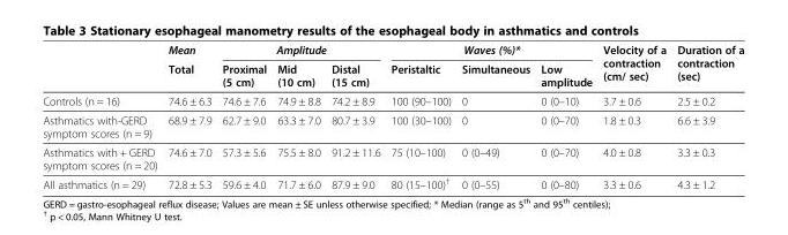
<table><thead><tr><td rowspan="2"></td><td rowspan="2">Mean Total</td><td colspan="3">Amplitude</td><td colspan="3">Waves (%)*</td><td rowspan="2">Velocity of a contraction (cm/ sec)</td><td rowspan="2">Duration of a contraction (sec)</td></tr><tr><td>Proximal (5 cm)</td><td>Mid (10 cm)</td><td>Distal (15 cm)</td><td>Peristaltic</td><td>Simultaneous</td><td>Low amplitude</td></tr></thead><tbody><tr><td>Controls (n = 16)</td><td>74.6 ± 6.3</td><td>74.6 ± 7.6</td><td>74.9 ± 8.8</td><td>74.2 ± 8.9</td><td>100 (90–100)</td><td>0</td><td>0 (0–10)</td><td>3.7 ± 0.6</td><td>2.5 ± 0.2</td></tr><tr><td>Asthmatics with-GERD symptom scores (n = 9)</td><td>68.9 ± 7.9</td><td>62.7 ± 9.0</td><td>63.3 ± 7.0</td><td>80.7 ± 3.9</td><td>100 (30–100)</td><td>0</td><td>0 (0–70)</td><td>1.8 ± 0.3</td><td>6.6 ± 3.9</td></tr><tr><td>Asthmatics with + GERD symptom scores (n = 20)</td><td>74.6 ± 7.0</td><td>57.3 ± 5.6</td><td>75.5 ± 8.0</td><td>91.2 ± 11.6</td><td>75 (10–100)</td><td>0 (0–49)</td><td>0 (0–70)</td><td>4.0 ± 0.8</td><td>3.3 ± 0.3</td></tr><tr><td>All asthmatics (n = 29)</td><td>72.8 ± 5.3</td><td>59.6 ± 4.0</td><td>71.7 ± 6.0</td><td>87.9 ± 9.0</td><td>80 (15–100)<sup>†</sup></td><td>0 (0–55)</td><td>0 (0–80)</td><td>3.3 ± 0.6</td><td>4.3 ± 1.2</td></tr></tbody></table>